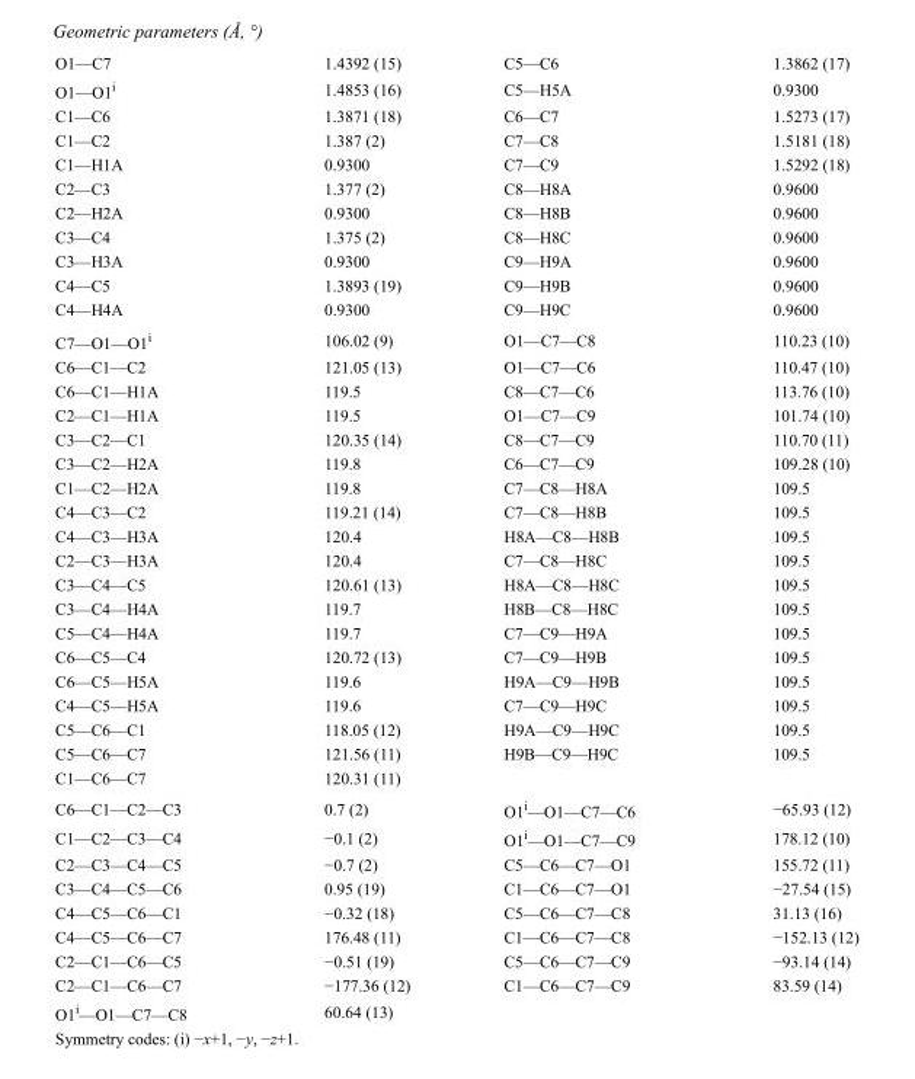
<table><tbody><tr><td>O1—C7</td><td>1.4392 (15)</td><td>C5—C6</td><td>1.3862 (17)</td></tr><tr><td>O1—O1<sup>i</sup></td><td>1.4853 (16)</td><td>C5—H5A</td><td>0.9300</td></tr><tr><td>C1—C6</td><td>1.3871 (18)</td><td>C6—C7</td><td>1.5273 (17)</td></tr><tr><td>C1—C2</td><td>1.387 (2)</td><td>C7—C8</td><td>1.5181 (18)</td></tr><tr><td>C1—H1A</td><td>0.9300</td><td>C7—C9</td><td>1.5292 (18)</td></tr><tr><td>C2—C3</td><td>1.377 (2)</td><td>C8—H8A</td><td>0.9600</td></tr><tr><td>C2—H2A</td><td>0.9300</td><td>C8—H8B</td><td>0.9600</td></tr><tr><td>C3—C4</td><td>1.375 (2)</td><td>C8—H8C</td><td>0.9600</td></tr><tr><td>C3—H3A</td><td>0.9300</td><td>C9—H9A</td><td>0.9600</td></tr><tr><td>C4—C5</td><td>1.3893 (19)</td><td>C9—H9B</td><td>0.9600</td></tr><tr><td>C4—H4A</td><td>0.9300</td><td>C9—H9C</td><td>0.9600</td></tr><tr><td>C7—O1—O1<sup>i</sup></td><td>106.02 (9)</td><td>O1—C7—C8</td><td>110.23 (10)</td></tr><tr><td>C6—C1—C2</td><td>121.05 (13)</td><td>O1—C7—C6</td><td>110.47 (10)</td></tr><tr><td>C6—C1—H1A</td><td>119.5</td><td>C8—C7—C6</td><td>113.76 (10)</td></tr><tr><td>C2—C1—H1A</td><td>119.5</td><td>O1—C7—C9</td><td>101.74 (10)</td></tr><tr><td>C3—C2—C1</td><td>120.35 (14)</td><td>C8—C7—C9</td><td>110.70 (11)</td></tr><tr><td>C3—C2—H2A</td><td>119.8</td><td>C6—C7—C9</td><td>109.28 (10)</td></tr><tr><td>C1—C2—H2A</td><td>119.8</td><td>C7—C8—H8A</td><td>109.5</td></tr><tr><td>C4—C3—C2</td><td>119.21 (14)</td><td>C7—C8—H8B</td><td>109.5</td></tr><tr><td>C4—C3—H3A</td><td>120.4</td><td>H8A—C8—H8B</td><td>109.5</td></tr><tr><td>C2—C3—H3A</td><td>120.4</td><td>C7—C8—H8C</td><td>109.5</td></tr><tr><td>C3—C4—C5</td><td>120.61 (13)</td><td>H8A—C8—H8C</td><td>109.5</td></tr><tr><td>C3—C4—H4A</td><td>119.7</td><td>H8B—C8—H8C</td><td>109.5</td></tr><tr><td>C5—C4—H4A</td><td>119.7</td><td>C7—C9—H9A</td><td>109.5</td></tr><tr><td>C6—C5—C4</td><td>120.72 (13)</td><td>C7—C9—H9B</td><td>109.5</td></tr><tr><td>C6—C5—H5A</td><td>119.6</td><td>H9A—C9—H9B</td><td>109.5</td></tr><tr><td>C4—C5—H5A</td><td>119.6</td><td>C7—C9—H9C</td><td>109.5</td></tr><tr><td>C5—C6—C1</td><td>118.05 (12)</td><td>H9A—C9—H9C</td><td>109.5</td></tr><tr><td>C5—C6—C7</td><td>121.56 (11)</td><td>H9B—C9—H9C</td><td>109.5</td></tr><tr><td>C1—C6—C7</td><td>120.31 (11)</td><td></td><td></td></tr><tr><td>C6—C1—C2—C3</td><td>0.7 (2)</td><td>O1<sup>i</sup>—O1—C7—C6</td><td>−65.93 (12)</td></tr><tr><td>C1—C2—C3—C4</td><td>−0.1 (2)</td><td>O1<sup>i</sup>—O1—C7—C9</td><td>178.12 (10)</td></tr><tr><td>C2—C3—C4—C5</td><td>−0.7 (2)</td><td>C5—C6—C7—O1</td><td>155.72 (11)</td></tr><tr><td>C3—C4—C5—C6</td><td>0.95 (19)</td><td>C1—C6—C7—O1</td><td>−27.54 (15)</td></tr><tr><td>C4—C5—C6—C1</td><td>−0.32 (18)</td><td>C5—C6—C7—C8</td><td>31.13 (16)</td></tr><tr><td>C4—C5—C6—C7</td><td>176.48 (11)</td><td>C1—C6—C7—C8</td><td>−152.13 (12)</td></tr><tr><td>C2—C1—C6—C5</td><td>−0.51 (19)</td><td>C5—C6—C7—C9</td><td>−93.14 (14)</td></tr><tr><td>C2—C1—C6—C7</td><td>−177.36 (12)</td><td>C1—C6—C7—C9</td><td>83.59 (14)</td></tr><tr><td>O1<sup>i</sup>—O1—C7—C8</td><td>60.64 (13)</td><td></td><td></td></tr></tbody></table>